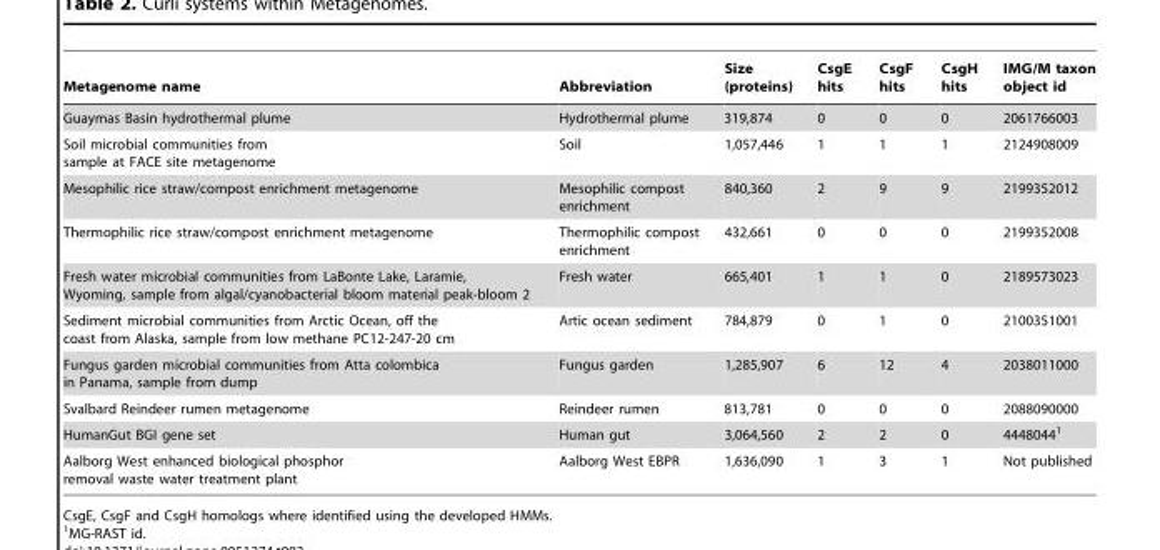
<table><thead><tr><td>Metagenome name</td><td>Abbreviation</td><td>Size (proteins)</td><td>CsgE hits</td><td>CsgF hits</td><td>CsgH hits</td><td>IMG/M taxon object id</td></tr></thead><tbody><tr><td>Guaymas Basin hydrothermal plume</td><td>Hydrothermal plume</td><td>319,874</td><td>0</td><td>0</td><td>0</td><td>2061766003</td></tr><tr><td>Soil microbial communities from sample at FACE site metagenome</td><td>Soil</td><td>1,057,446</td><td>1</td><td>1</td><td>1</td><td>2124908009</td></tr><tr><td>Mesophilic rice straw/compost enrichment metagenome</td><td>Mesophilic compost enrichment</td><td>840,360</td><td>2</td><td>9</td><td>9</td><td>2199352012</td></tr><tr><td>Thermophilic rice straw/compost enrichment metagenome</td><td>Thermophilic compost enrichment</td><td>432,661</td><td>0</td><td>0</td><td>0</td><td>2199352008</td></tr><tr><td>Fresh water microbial communities from LaBonte Lake, Laramie, Wyoming, sample from algal/cyanobacterial bloom material peak-bloom 2</td><td>Fresh water</td><td>665,401</td><td>1</td><td>1</td><td>0</td><td>2189573023</td></tr><tr><td>Sediment microbial communities from Arctic Ocean, off the coast from Alaska, sample from low methane PC12-247-20 cm</td><td>Artic ocean sediment</td><td>784,879</td><td>0</td><td>1</td><td>0</td><td>2100351001</td></tr><tr><td>Fungus garden microbial communities from Atta colombica in Panama, sample from dump</td><td>Fungus garden</td><td>1,285,907</td><td>6</td><td>12</td><td>4</td><td>2038011000</td></tr><tr><td>Svalbard Reindeer rumen metagenome</td><td>Reindeer rumen</td><td>813,781</td><td>0</td><td>0</td><td>0</td><td>2088090000</td></tr><tr><td>HumanGut BGI gene set</td><td>Human gut</td><td>3,064,560</td><td>2</td><td>2</td><td>0</td><td>4448044<sup>1</sup></td></tr><tr><td>Aalborg West enhanced biological phosphor removal waste water treatment plant</td><td>Aalborg West EBPR</td><td>1,636,090</td><td>1</td><td>3</td><td>1</td><td>Not published</td></tr></tbody></table>